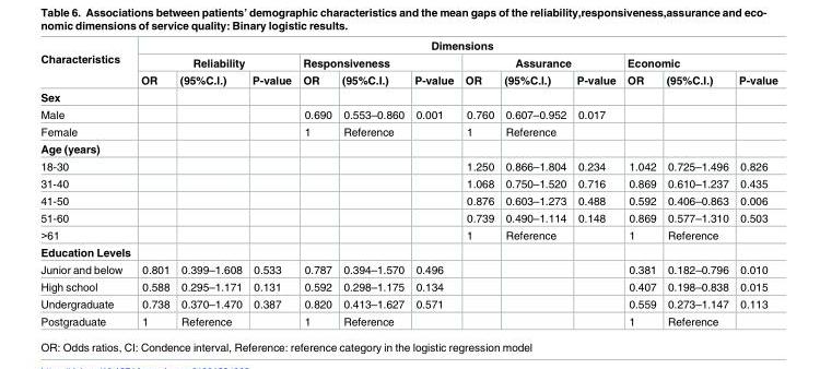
<table><thead><tr><td rowspan="3">Characteristics</td><td colspan="12">Dimensions</td></tr><tr><td colspan="3">Reliability</td><td colspan="3">Responsiveness</td><td colspan="3">Assurance</td><td colspan="3">Economic</td></tr><tr><td>OR</td><td>(95%C.I.)</td><td>P-value</td><td>OR</td><td>(95%C.I.)</td><td>P-value</td><td>OR</td><td>(95%C.I.)</td><td>P-value</td><td>OR</td><td>(95%C.I.)</td><td>P-value</td></tr></thead><tbody><tr><td colspan="13">Sex</td></tr><tr><td>Male</td><td></td><td></td><td></td><td>0.690</td><td>0.553–0.860</td><td>0.001</td><td>0.760</td><td>0.607–0.952</td><td>0.017</td><td></td><td></td><td></td></tr><tr><td>Female</td><td></td><td></td><td></td><td>1</td><td>Reference</td><td></td><td>1</td><td>Reference</td><td></td><td></td><td></td><td></td></tr><tr><td colspan="13">Age (years)</td></tr><tr><td>18-30</td><td></td><td></td><td></td><td></td><td></td><td></td><td>1.250</td><td>0.866–1.804</td><td>0.234</td><td>1.042</td><td>0.725–1.496</td><td>0.826</td></tr><tr><td>31-40</td><td></td><td></td><td></td><td></td><td></td><td></td><td>1.068</td><td>0.750–1.520</td><td>0.716</td><td>0.869</td><td>0.610–1.237</td><td>0.435</td></tr><tr><td>41-50</td><td></td><td></td><td></td><td></td><td></td><td></td><td>0.876</td><td>0.603–1.273</td><td>0.488</td><td>0.592</td><td>0.406–0.863</td><td>0.006</td></tr><tr><td>51-60</td><td></td><td></td><td></td><td></td><td></td><td></td><td>0.739</td><td>0.490–1.114</td><td>0.148</td><td>0.869</td><td>0.577–1.310</td><td>0.503</td></tr><tr><td>&gt;61</td><td></td><td></td><td></td><td></td><td></td><td></td><td>1</td><td>Reference</td><td></td><td>1</td><td>Reference</td><td></td></tr><tr><td colspan="13">Education Levels</td></tr><tr><td>Junior and below</td><td>0.801</td><td>0.399–1.608</td><td>0.533</td><td>0.787</td><td>0.394–1.570</td><td>0.496</td><td></td><td></td><td></td><td>0.381</td><td>0.182–0.796</td><td>0.010</td></tr><tr><td>High school</td><td>0.588</td><td>0.295–1.171</td><td>0.131</td><td>0.592</td><td>0.298–1.175</td><td>0.134</td><td></td><td></td><td></td><td>0.407</td><td>0.198–0.838</td><td>0.015</td></tr><tr><td>Undergraduate</td><td>0.738</td><td>0.370–1.470</td><td>0.387</td><td>0.820</td><td>0.413–1.627</td><td>0.571</td><td></td><td></td><td></td><td>0.559</td><td>0.273–1.147</td><td>0.113</td></tr><tr><td>Postgraduate</td><td>1</td><td>Reference</td><td></td><td>1</td><td>Reference</td><td></td><td></td><td></td><td></td><td>1</td><td>Reference</td><td></td></tr></tbody></table>